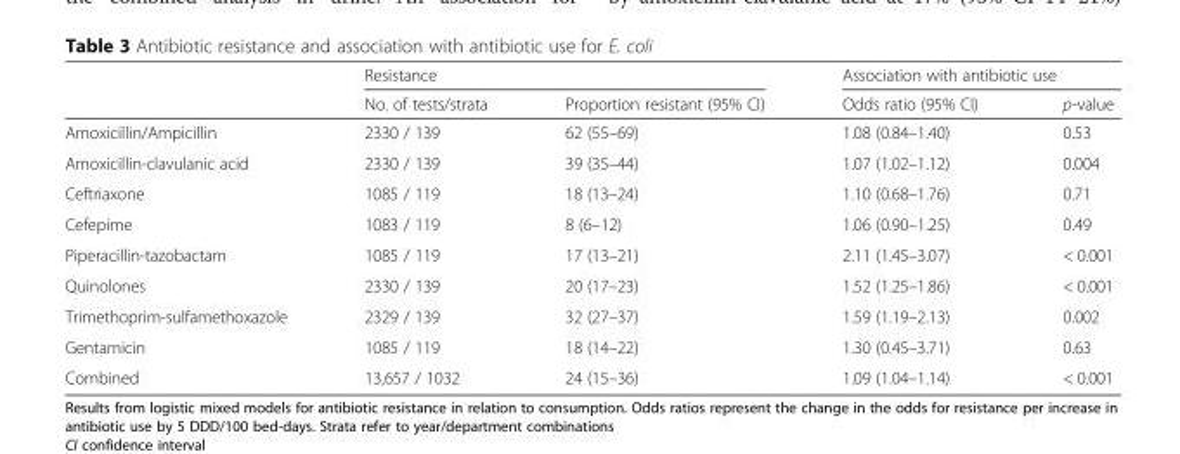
<table><thead><tr><td rowspan="2"></td><td colspan="2">Resistance</td><td colspan="2">Association with antibiotic use</td></tr><tr><td>No. of tests/strata</td><td>Proportion resistant (95% CI)</td><td>Odds ratio (95% CI)</td><td>p-value</td></tr></thead><tbody><tr><td>Amoxicillin/Ampicillin</td><td>2330 / 139</td><td>62 (55–69)</td><td>1.08 (0.84–1.40)</td><td>0.53</td></tr><tr><td>Amoxicillin-clavulanic acid</td><td>2330 / 139</td><td>39 (35–44)</td><td>1.07 (1.02–1.12)</td><td>0.004</td></tr><tr><td>Ceftriaxone</td><td>1085 / 119</td><td>18 (13–24)</td><td>1.10 (0.68–1.76)</td><td>0.71</td></tr><tr><td>Cefepime</td><td>1083 / 119</td><td>8 (6–12)</td><td>1.06 (0.90–1.25)</td><td>0.49</td></tr><tr><td>Piperacillin-tazobactam</td><td>1085 / 119</td><td>17 (13–21)</td><td>2.11 (1.45–3.07)</td><td>&lt; 0.001</td></tr><tr><td>Quinolones</td><td>2330 / 139</td><td>20 (17–23)</td><td>1.52 (1.25–1.86)</td><td>&lt; 0.001</td></tr><tr><td>Trimethoprim-sulfamethoxazole</td><td>2329 / 139</td><td>32 (27–37)</td><td>1.59 (1.19–2.13)</td><td>0.002</td></tr><tr><td>Gentamicin</td><td>1085 / 119</td><td>18 (14–22)</td><td>1.30 (0.45–3.71)</td><td>0.63</td></tr><tr><td>Combined</td><td>13,657 / 1032</td><td>24 (15–36)</td><td>1.09 (1.04–1.14)</td><td>&lt; 0.001</td></tr></tbody></table>